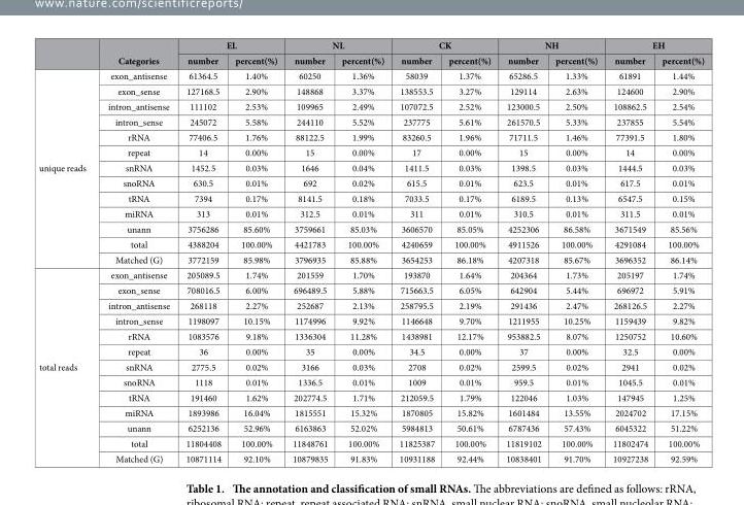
<table><thead><tr><td rowspan="2"></td><td rowspan="2">Categories</td><td colspan="2">EL</td><td colspan="2">NL</td><td colspan="2">CK</td><td colspan="2">NH</td><td colspan="2">EH</td></tr><tr><td>number</td><td>percent(%)</td><td>number</td><td>percent(%)</td><td>number</td><td>percent(%)</td><td>number</td><td>percent(%)</td><td>number</td><td>percent(%)</td></tr></thead><tbody><tr><td rowspan="13">unique reads</td><td>exon_antisense</td><td>61364.5</td><td>1.40%</td><td>60250</td><td>1.36%</td><td>58039</td><td>1.37%</td><td>65286.5</td><td>1.33%</td><td>61891</td><td>1.44%</td></tr><tr><td>exon_sense</td><td>127168.5</td><td>2.90%</td><td>148868</td><td>3.37%</td><td>138553.5</td><td>3.27%</td><td>129114</td><td>2.63%</td><td>124600</td><td>2.90%</td></tr><tr><td>intron_antisense</td><td>111102</td><td>2.53%</td><td>109965</td><td>2.49%</td><td>107072.5</td><td>2.52%</td><td>123000.5</td><td>2.50%</td><td>108862.5</td><td>2.54%</td></tr><tr><td>intron_sense</td><td>245072</td><td>5.58%</td><td>244110</td><td>5.52%</td><td>237775</td><td>5.61%</td><td>261570.5</td><td>5.33%</td><td>237855</td><td>5.54%</td></tr><tr><td>rRNA</td><td>77406.5</td><td>1.76%</td><td>88122.5</td><td>1.99%</td><td>83260.5</td><td>1.96%</td><td>71711.5</td><td>1.46%</td><td>77391.5</td><td>1.80%</td></tr><tr><td>repeat</td><td>14</td><td>0.00%</td><td>15</td><td>0.00%</td><td>17</td><td>0.00%</td><td>15</td><td>0.00%</td><td>14</td><td>0.00%</td></tr><tr><td>snRNA</td><td>1452.5</td><td>0.03%</td><td>1646</td><td>0.04%</td><td>1411.5</td><td>0.03%</td><td>1398.5</td><td>0.03%</td><td>1444.5</td><td>0.03%</td></tr><tr><td>snoRNA</td><td>630.5</td><td>0.01%</td><td>692</td><td>0.02%</td><td>615.5</td><td>0.01%</td><td>623.5</td><td>0.01%</td><td>617.5</td><td>0.01%</td></tr><tr><td>tRNA</td><td>7394</td><td>0.17%</td><td>8141.5</td><td>0.18%</td><td>7033.5</td><td>0.17%</td><td>6189.5</td><td>0.13%</td><td>6547.5</td><td>0.15%</td></tr><tr><td>miRNA</td><td>313</td><td>0.01%</td><td>312.5</td><td>0.01%</td><td>311</td><td>0.01%</td><td>310.5</td><td>0.01%</td><td>311.5</td><td>0.01%</td></tr><tr><td>unann</td><td>3756286</td><td>85.60%</td><td>3759661</td><td>85.03%</td><td>3606570</td><td>85.05%</td><td>4252306</td><td>86.58%</td><td>3671549</td><td>85.56%</td></tr><tr><td>total</td><td>4388204</td><td>100.00%</td><td>4421783</td><td>100.00%</td><td>4240659</td><td>100.00%</td><td>4911526</td><td>100.00%</td><td>4291084</td><td>100.00%</td></tr><tr><td>Matched (G)</td><td>3772159</td><td>85.98%</td><td>3796935</td><td>85.88%</td><td>3654253</td><td>86.18%</td><td>4207318</td><td>85.67%</td><td>3696352</td><td>86.14%</td></tr><tr><td rowspan="13">total reads</td><td>exon_antisense</td><td>205089.5</td><td>1.74%</td><td>201559</td><td>1.70%</td><td>193870</td><td>1.64%</td><td>204364</td><td>1.73%</td><td>205197</td><td>1.74%</td></tr><tr><td>exon_sense</td><td>708016.5</td><td>6.00%</td><td>696489.5</td><td>5.88%</td><td>715663.5</td><td>6.05%</td><td>642904</td><td>5.44%</td><td>696972</td><td>5.91%</td></tr><tr><td>intron_antisense</td><td>268118</td><td>2.27%</td><td>252687</td><td>2.13%</td><td>258795.5</td><td>2.19%</td><td>291436</td><td>2.47%</td><td>268126.5</td><td>2.27%</td></tr><tr><td>intron_sense</td><td>1198097</td><td>10.15%</td><td>1174996</td><td>9.92%</td><td>1146648</td><td>9.70%</td><td>1211955</td><td>10.25%</td><td>1159439</td><td>9.82%</td></tr><tr><td>rRNA</td><td>1083576</td><td>9.18%</td><td>1336304</td><td>11.28%</td><td>1438981</td><td>12.17%</td><td>953882.5</td><td>8.07%</td><td>1250752</td><td>10.60%</td></tr><tr><td>repeat</td><td>36</td><td>0.00%</td><td>35</td><td>0.00%</td><td>34.5</td><td>0.00%</td><td>37</td><td>0.00%</td><td>32.5</td><td>0.00%</td></tr><tr><td>snRNA</td><td>2775.5</td><td>0.02%</td><td>3166</td><td>0.03%</td><td>2708</td><td>0.02%</td><td>2599.5</td><td>0.02%</td><td>2941</td><td>0.02%</td></tr><tr><td>snoRNA</td><td>1118</td><td>0.01%</td><td>1336.5</td><td>0.01%</td><td>1009</td><td>0.01%</td><td>959.5</td><td>0.01%</td><td>1045.5</td><td>0.01%</td></tr><tr><td>tRNA</td><td>191460</td><td>1.62%</td><td>202774.5</td><td>1.71%</td><td>212059.5</td><td>1.79%</td><td>122046</td><td>1.03%</td><td>147945</td><td>1.25%</td></tr><tr><td>miRNA</td><td>1893986</td><td>16.04%</td><td>1815551</td><td>15.32%</td><td>1870805</td><td>15.82%</td><td>1601484</td><td>13.55%</td><td>2024702</td><td>17.15%</td></tr><tr><td>unann</td><td>6252136</td><td>52.96%</td><td>6163863</td><td>52.02%</td><td>5984813</td><td>50.61%</td><td>6787436</td><td>57.43%</td><td>6045322</td><td>51.22%</td></tr><tr><td>total</td><td>11804408</td><td>100.00%</td><td>11848761</td><td>100.00%</td><td>11825387</td><td>100.00%</td><td>11819102</td><td>100.00%</td><td>11802474</td><td>100.00%</td></tr><tr><td>Matched (G)</td><td>10871114</td><td>92.10%</td><td>10879835</td><td>91.83%</td><td>10931188</td><td>92.44%</td><td>10838401</td><td>91.70%</td><td>10927238</td><td>92.59%</td></tr></tbody></table>